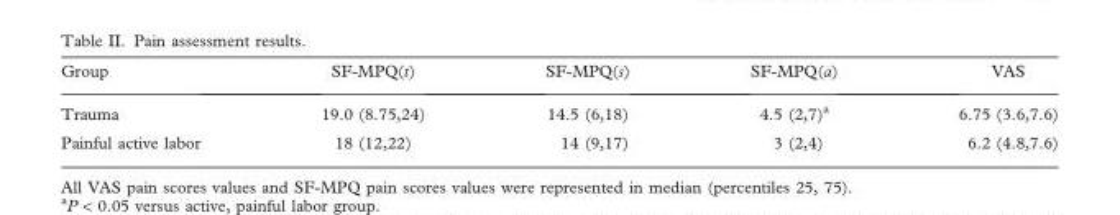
<table><thead><tr><td>Group</td><td>SF-MPQ(t)</td><td>SF-MPQ(s)</td><td>SF-MPQ(a)</td><td>VAS</td></tr></thead><tbody><tr><td>Trauma</td><td>19.0 (8.75,24)</td><td>14.5 (6,18)</td><td>4.5 (2,7)<sup>a</sup></td><td>6.75 (3.6,7.6)</td></tr><tr><td>Painful active labor</td><td>18 (12,22)</td><td>14 (9,17)</td><td>3 (2,4)</td><td>6.2 (4.8,7.6)</td></tr></tbody></table>